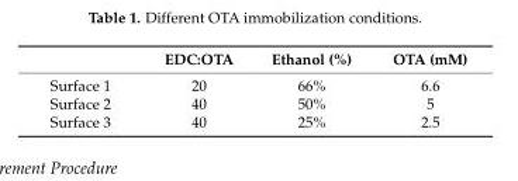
<table><thead><tr><td></td><td>EDC:OTA</td><td>Ethanol (%)</td><td>OTA (mM)</td></tr></thead><tbody><tr><td>Surface 1</td><td>20</td><td>66%</td><td>6.6</td></tr><tr><td>Surface 2</td><td>40</td><td>50%</td><td>5</td></tr><tr><td>Surface 3</td><td>40</td><td>25%</td><td>2.5</td></tr></tbody></table>